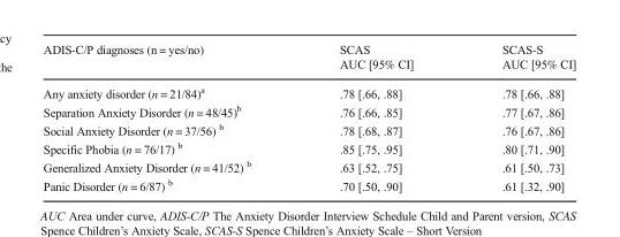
<table><thead><tr><td rowspan="2">ADIS-C/P diagnoses (n = yes/no)</td><td rowspan="2">SCAS AUC [95% CI]</td><td rowspan="2">SCAS-S AUC [95% CI]</td></tr><tr></tr></thead><tbody><tr><td>Any anxiety disorder (n = 21/84)<sup>a</sup></td><td>.78 [.66, .88]</td><td>.78 [.66, .88]</td></tr><tr><td>Separation Anxiety Disorder (n = 48/45)<sup>b</sup></td><td>.76 [.66, .85]</td><td>.77 [.67, .86]</td></tr><tr><td>Social Anxiety Disorder (n = 37/56) <sup>b</sup></td><td>.78 [.68, .87]</td><td>.76 [.67, .86]</td></tr><tr><td>Specific Phobia (n = 76/17) <sup>b</sup></td><td>.85 [.75, .95]</td><td>.80 [.71, .90]</td></tr><tr><td>Generalized Anxiety Disorder (n = 41/52) <sup>b</sup></td><td>.63 [.52, .75]</td><td>.61 [.50, .73]</td></tr><tr><td>Panic Disorder (n = 6/87) <sup>b</sup></td><td>.70 [.50, .90]</td><td>.61 [.32, .90]</td></tr></tbody></table>